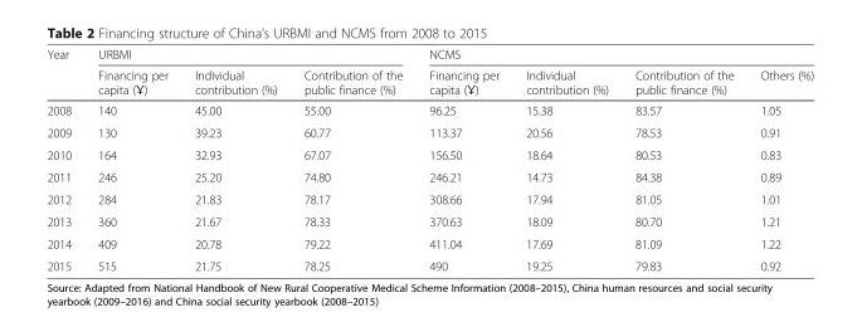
<table><thead><tr><td rowspan="2">Year</td><td colspan="3">URBMI</td><td colspan="4">NCMS</td></tr><tr><td>Financing per capita (Ұ)</td><td>Individual contribution (%)</td><td>Contribution of the public finance (%)</td><td>Financing per capita (Ұ)</td><td>Individual contribution (%)</td><td>Contribution of the public finance (%)</td><td>Others (%)</td></tr></thead><tbody><tr><td>2008</td><td>140</td><td>45.00</td><td>55.00</td><td>96.25</td><td>15.38</td><td>83.57</td><td>1.05</td></tr><tr><td>2009</td><td>130</td><td>39.23</td><td>60.77</td><td>113.37</td><td>20.56</td><td>78.53</td><td>0.91</td></tr><tr><td>2010</td><td>164</td><td>32.93</td><td>67.07</td><td>156.50</td><td>18.64</td><td>80.53</td><td>0.83</td></tr><tr><td>2011</td><td>246</td><td>25.20</td><td>74.80</td><td>246.21</td><td>14.73</td><td>84.38</td><td>0.89</td></tr><tr><td>2012</td><td>284</td><td>21.83</td><td>78.17</td><td>308.66</td><td>17.94</td><td>81.05</td><td>1.01</td></tr><tr><td>2013</td><td>360</td><td>21.67</td><td>78.33</td><td>370.63</td><td>18.09</td><td>80.70</td><td>1.21</td></tr><tr><td>2014</td><td>409</td><td>20.78</td><td>79.22</td><td>411.04</td><td>17.69</td><td>81.09</td><td>1.22</td></tr><tr><td>2015</td><td>515</td><td>21.75</td><td>78.25</td><td>490</td><td>19.25</td><td>79.83</td><td>0.92</td></tr></tbody></table>